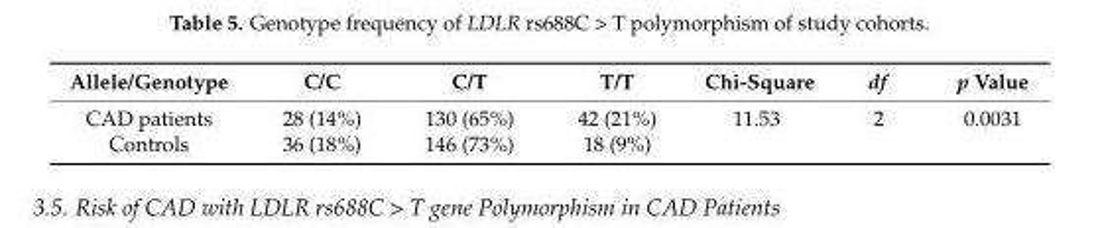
<table><thead><tr><td>Allele/Genotype</td><td>C/C</td><td>C/T</td><td>T/T</td><td>Chi-Square</td><td>df</td><td>p Value</td></tr></thead><tbody><tr><td>CAD patients</td><td>28 (14%)</td><td>130 (65%)</td><td>42 (21%)</td><td>11.53</td><td>2</td><td>0.0031</td></tr><tr><td>Controls</td><td>36 (18%)</td><td>146 (73%)</td><td>18 (9%)</td><td></td><td></td><td></td></tr></tbody></table>